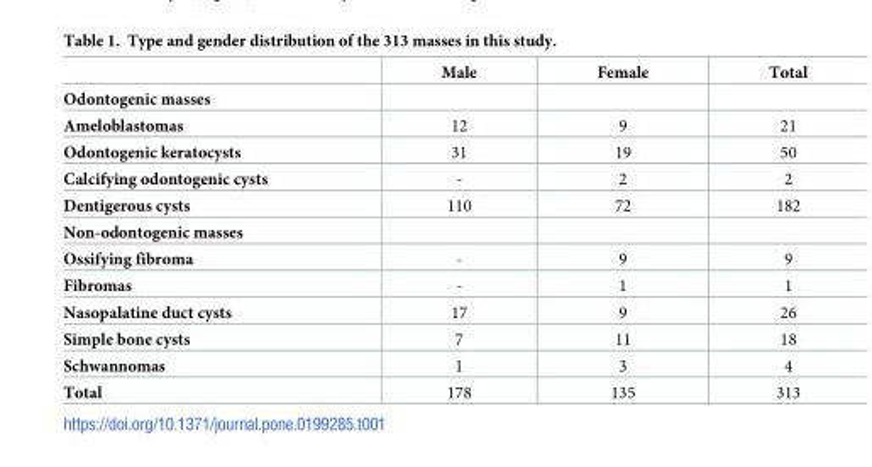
<table><thead><tr><td></td><td>Male</td><td>Female</td><td>Total</td></tr></thead><tbody><tr><td colspan="4">Odontogenic masses</td></tr><tr><td>Ameloblastomas</td><td>12</td><td>9</td><td>21</td></tr><tr><td>Odontogenic keratocysts</td><td>31</td><td>19</td><td>50</td></tr><tr><td>Calcifying odontogenic cysts</td><td>-</td><td>2</td><td>2</td></tr><tr><td>Dentigerous cysts</td><td>110</td><td>72</td><td>182</td></tr><tr><td colspan="4">Non-odontogenic masses</td></tr><tr><td>Ossifying fibroma</td><td>-</td><td>9</td><td>9</td></tr><tr><td>Fibromas</td><td>-</td><td>1</td><td>1</td></tr><tr><td>Nasopalatine duct cysts</td><td>17</td><td>9</td><td>26</td></tr><tr><td>Simple bone cysts</td><td>7</td><td>11</td><td>18</td></tr><tr><td>Schwannomas</td><td>1</td><td>3</td><td>4</td></tr><tr><td>Total</td><td>178</td><td>135</td><td>313</td></tr></tbody></table>